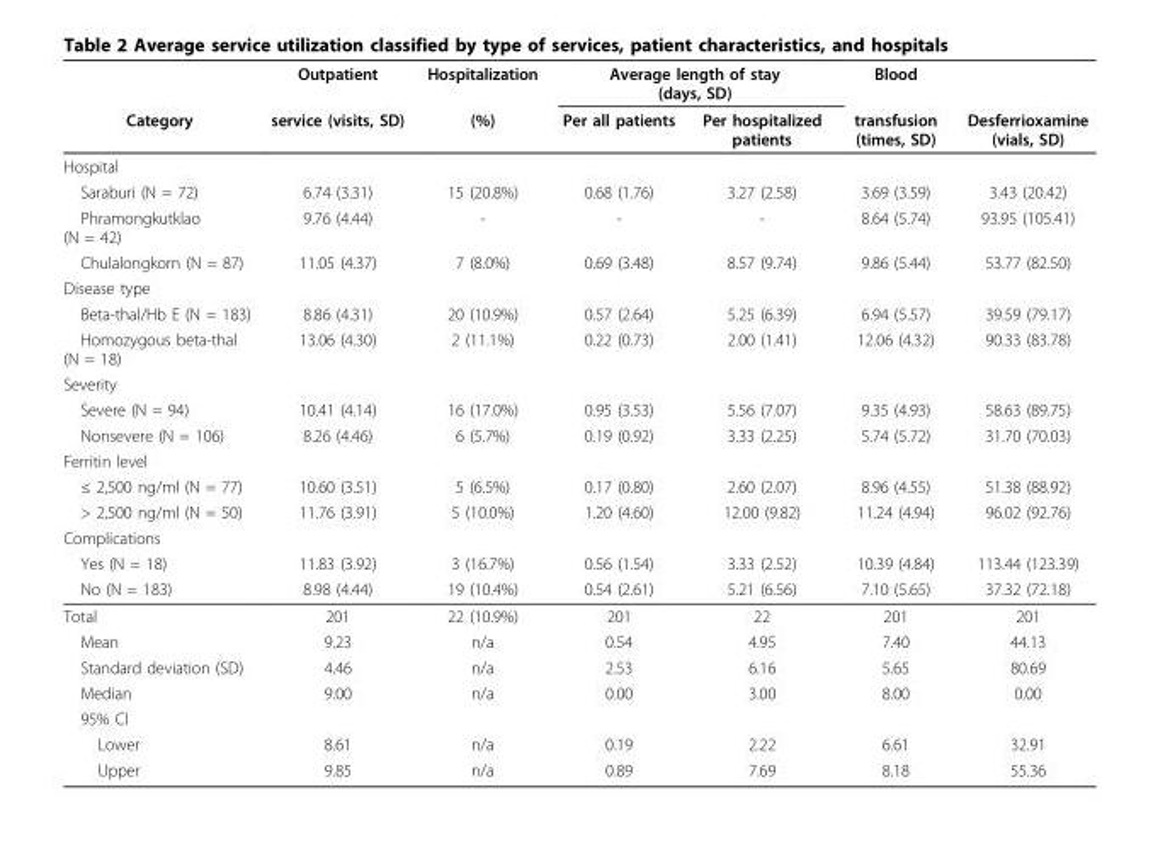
<table><thead><tr><td rowspan="2">Category</td><td rowspan="2">Outpatient service (visits, SD)</td><td rowspan="2">Hospitalization (%)</td><td colspan="2">Average length of stay (days, SD)</td><td rowspan="2">Blood transfusion (times, SD)</td><td rowspan="2">Desferrioxamine (vials, SD)</td></tr><tr><td>Per all patients</td><td>Per hospitalized patients</td></tr></thead><tbody><tr><td colspan="7">Hospital</td></tr><tr><td>Saraburi (N = 72)</td><td>6.74 (3.31)</td><td>15 (20.8%)</td><td>0.68 (1.76)</td><td>3.27 (2.58)</td><td>3.69 (3.59)</td><td>3.43 (20.42)</td></tr><tr><td>Phramongkutklao (N = 42)</td><td>9.76 (4.44)</td><td>-</td><td>-</td><td>-</td><td>8.64 (5.74)</td><td>93.95 (105.41)</td></tr><tr><td>Chulalongkorn (N = 87)</td><td>11.05 (4.37)</td><td>7 (8.0%)</td><td>0.69 (3.48)</td><td>8.57 (9.74)</td><td>9.86 (5.44)</td><td>53.77 (82.50)</td></tr><tr><td colspan="7">Disease type</td></tr><tr><td>Beta-thal/Hb E (N = 183)</td><td>8.86 (4.31)</td><td>20 (10.9%)</td><td>0.57 (2.64)</td><td>5.25 (6.39)</td><td>6.94 (5.57)</td><td>39.59 (79.17)</td></tr><tr><td>Homozygous beta-thal (N = 18)</td><td>13.06 (4.30)</td><td>2 (11.1%)</td><td>0.22 (0.73)</td><td>2.00 (1.41)</td><td>12.06 (4.32)</td><td>90.33 (83.78)</td></tr><tr><td colspan="7">Severity</td></tr><tr><td>Severe (N = 94)</td><td>10.41 (4.14)</td><td>16 (17.0%)</td><td>0.95 (3.53)</td><td>5.56 (7.07)</td><td>9.35 (4.93)</td><td>58.63 (89.75)</td></tr><tr><td>Nonsevere (N = 106)</td><td>8.26 (4.46)</td><td>6 (5.7%)</td><td>0.19 (0.92)</td><td>3.33 (2.25)</td><td>5.74 (5.72)</td><td>31.70 (70.03)</td></tr><tr><td colspan="7">Ferritin level</td></tr><tr><td>≤ 2,500 ng/ml (N = 77)</td><td>10.60 (3.51)</td><td>5 (6.5%)</td><td>0.17 (0.80)</td><td>2.60 (2.07)</td><td>8.96 (4.55)</td><td>51.38 (88.92)</td></tr><tr><td>&gt; 2,500 ng/ml (N = 50)</td><td>11.76 (3.91)</td><td>5 (10.0%)</td><td>1.20 (4.60)</td><td>12.00 (9.82)</td><td>11.24 (4.94)</td><td>96.02 (92.76)</td></tr><tr><td colspan="7">Complications</td></tr><tr><td>Yes (N = 18)</td><td>11.83 (3.92)</td><td>3 (16.7%)</td><td>0.56 (1.54)</td><td>3.33 (2.52)</td><td>10.39 (4.84)</td><td>113.44 (123.39)</td></tr><tr><td>No (N = 183)</td><td>8.98 (4.44)</td><td>19 (10.4%)</td><td>0.54 (2.61)</td><td>5.21 (6.56)</td><td>7.10 (5.65)</td><td>37.32 (72.18)</td></tr><tr><td>Total</td><td>201</td><td>22 (10.9%)</td><td>201</td><td>22</td><td>201</td><td>201</td></tr><tr><td>Mean</td><td>9.23</td><td>n/a</td><td>0.54</td><td>4.95</td><td>7.40</td><td>44.13</td></tr><tr><td>Standard deviation (SD)</td><td>4.46</td><td>n/a</td><td>2.53</td><td>6.16</td><td>5.65</td><td>80.69</td></tr><tr><td>Median</td><td>9.00</td><td>n/a</td><td>0.00</td><td>3.00</td><td>8.00</td><td>0.00</td></tr><tr><td colspan="7">95% CI</td></tr><tr><td>Lower</td><td>8.61</td><td>n/a</td><td>0.19</td><td>2.22</td><td>6.61</td><td>32.91</td></tr><tr><td>Upper</td><td>9.85</td><td>n/a</td><td>0.89</td><td>7.69</td><td>8.18</td><td>55.36</td></tr></tbody></table>